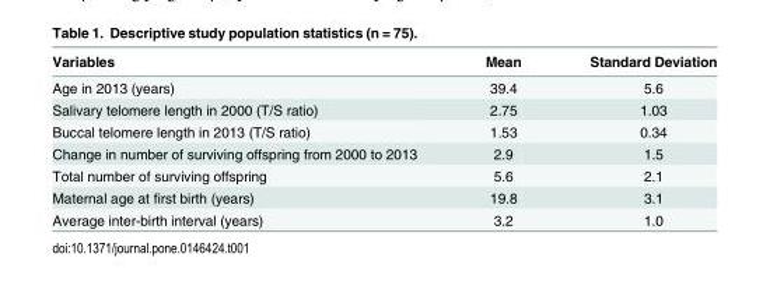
<table><thead><tr><td>Variables</td><td>Mean</td><td>Standard Deviation</td></tr></thead><tbody><tr><td>Age in 2013 (years)</td><td>39.4</td><td>5.6</td></tr><tr><td>Salivary telomere length in 2000 (T/S ratio)</td><td>2.75</td><td>1.03</td></tr><tr><td>Buccal telomere length in 2013 (T/S ratio)</td><td>1.53</td><td>0.34</td></tr><tr><td>Change in number of surviving offspring from 2000 to 2013</td><td>2.9</td><td>1.5</td></tr><tr><td>Total number of surviving offspring</td><td>5.6</td><td>2.1</td></tr><tr><td>Maternal age at first birth (years)</td><td>19.8</td><td>3.1</td></tr><tr><td>Average inter-birth interval (years)</td><td>3.2</td><td>1.0</td></tr></tbody></table>